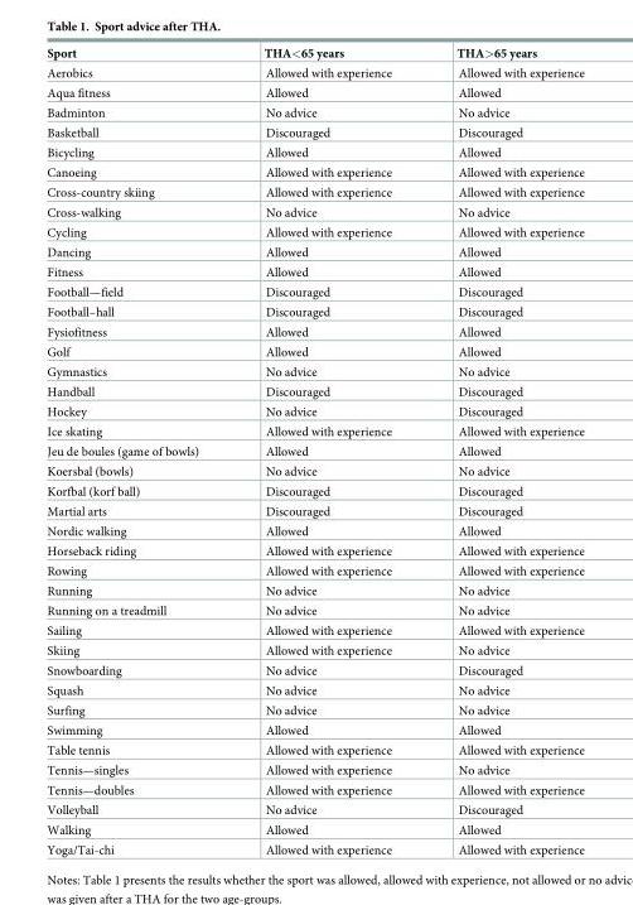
<table><thead><tr><td>Sport</td><td>THA&lt;65 years</td><td>THA&gt;65 years</td></tr></thead><tbody><tr><td>Aerobics</td><td>Allowed with experience</td><td>Allowed with experience</td></tr><tr><td>Aqua fitness</td><td>Allowed</td><td>Allowed</td></tr><tr><td>Badminton</td><td>No advice</td><td>No advice</td></tr><tr><td>Basketball</td><td>Discouraged</td><td>Discouraged</td></tr><tr><td>Bicycling</td><td>Allowed</td><td>Allowed</td></tr><tr><td>Canoeing</td><td>Allowed with experience</td><td>Allowed with experience</td></tr><tr><td>Cross-country skiing</td><td>Allowed with experience</td><td>Allowed with experience</td></tr><tr><td>Cross-walking</td><td>No advice</td><td>No advice</td></tr><tr><td>Cycling</td><td>Allowed with experience</td><td>Allowed with experience</td></tr><tr><td>Dancing</td><td>Allowed</td><td>Allowed</td></tr><tr><td>Fitness</td><td>Allowed</td><td>Allowed</td></tr><tr><td>Football—field</td><td>Discouraged</td><td>Discouraged</td></tr><tr><td>Football–hall</td><td>Discouraged</td><td>Discouraged</td></tr><tr><td>Fysiofitness</td><td>Allowed</td><td>Allowed</td></tr><tr><td>Golf</td><td>Allowed</td><td>Allowed</td></tr><tr><td>Gymnastics</td><td>No advice</td><td>No advice</td></tr><tr><td>Handball</td><td>Discouraged</td><td>Discouraged</td></tr><tr><td>Hockey</td><td>No advice</td><td>Discouraged</td></tr><tr><td>Ice skating</td><td>Allowed with experience</td><td>Allowed with experience</td></tr><tr><td>Jeu de boules (game of bowls)</td><td>Allowed</td><td>Allowed</td></tr><tr><td>Koersbal (bowls)</td><td>No advice</td><td>No advice</td></tr><tr><td>Korfbal (korf ball)</td><td>Discouraged</td><td>Discouraged</td></tr><tr><td>Martial arts</td><td>Discouraged</td><td>Discouraged</td></tr><tr><td>Nordic walking</td><td>Allowed</td><td>Allowed</td></tr><tr><td>Horseback riding</td><td>Allowed with experience</td><td>Allowed with experience</td></tr><tr><td>Rowing</td><td>Allowed with experience</td><td>Allowed with experience</td></tr><tr><td>Running</td><td>No advice</td><td>No advice</td></tr><tr><td>Running on a treadmill</td><td>No advice</td><td>No advice</td></tr><tr><td>Sailing</td><td>Allowed with experience</td><td>Allowed with experience</td></tr><tr><td>Skiing</td><td>Allowed with experience</td><td>No advice</td></tr><tr><td>Snowboarding</td><td>No advice</td><td>Discouraged</td></tr><tr><td>Squash</td><td>No advice</td><td>No advice</td></tr><tr><td>Surfing</td><td>No advice</td><td>No advice</td></tr><tr><td>Swimming</td><td>Allowed</td><td>Allowed</td></tr><tr><td>Table tennis</td><td>Allowed with experience</td><td>Allowed with experience</td></tr><tr><td>Tennis—singles</td><td>Allowed with experience</td><td>No advice</td></tr><tr><td>Tennis—doubles</td><td>Allowed with experience</td><td>Allowed with experience</td></tr><tr><td>Volleyball</td><td>No advice</td><td>Discouraged</td></tr><tr><td>Walking</td><td>Allowed</td><td>Allowed</td></tr><tr><td>Yoga/Tai-chi</td><td>Allowed with experience</td><td>Allowed with experience</td></tr></tbody></table>